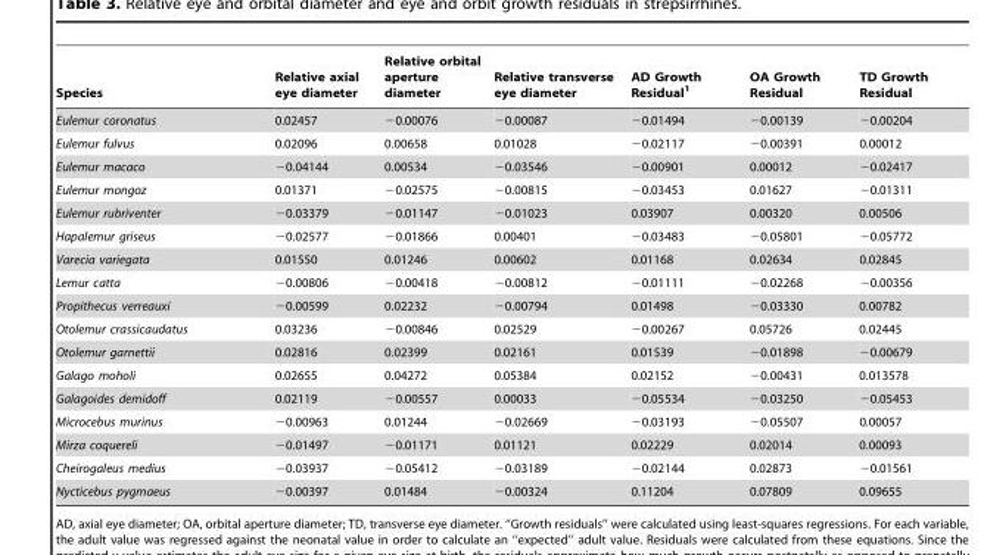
<table><thead><tr><td>Species</td><td>Relative axial eye diameter</td><td>Relative orbital aperture diameter</td><td>Relative transverse eye diameter</td><td>AD Growth Residual<sup>1</sup></td><td>OA Growth Residual</td><td>TD Growth Residual</td></tr></thead><tbody><tr><td>Eulemur coronatus</td><td>0.02457</td><td>−0.00076</td><td>−0.00087</td><td>−0.01494</td><td>−0.00139</td><td>−0.00204</td></tr><tr><td>Eulemur fulvus</td><td>0.02096</td><td>0.00658</td><td>0.01028</td><td>−0.02117</td><td>−0.00391</td><td>0.00012</td></tr><tr><td>Eulemur macaco</td><td>−0.04144</td><td>0.00534</td><td>−0.03546</td><td>−0.00901</td><td>0.00012</td><td>−0.02417</td></tr><tr><td>Eulemur mongoz</td><td>0.01371</td><td>−0.02575</td><td>−0.00815</td><td>−0.03453</td><td>0.01627</td><td>−0.01311</td></tr><tr><td>Eulemur rubriventer</td><td>−0.03379</td><td>−0.01147</td><td>−0.01023</td><td>0.03907</td><td>0.00320</td><td>0.00506</td></tr><tr><td>Hapalemur griseus</td><td>−0.02577</td><td>−0.01866</td><td>0.00401</td><td>−0.03483</td><td>−0.05801</td><td>−0.05772</td></tr><tr><td>Varecia variegata</td><td>0.01550</td><td>0.01246</td><td>0.00602</td><td>0.01168</td><td>0.02634</td><td>0.02845</td></tr><tr><td>Lemur catta</td><td>−0.00806</td><td>−0.00418</td><td>−0.00812</td><td>−0.01111</td><td>−0.02268</td><td>−0.00356</td></tr><tr><td>Propithecus verreauxi</td><td>−0.00599</td><td>0.02232</td><td>−0.00794</td><td>0.01498</td><td>−0.03330</td><td>0.00782</td></tr><tr><td>Otolemur crassicaudatus</td><td>0.03236</td><td>−0.00846</td><td>0.02529</td><td>−0.00267</td><td>0.05726</td><td>0.02445</td></tr><tr><td>Otolemur garnettii</td><td>0.02816</td><td>0.02399</td><td>0.02161</td><td>0.01539</td><td>−0.01898</td><td>−0.00679</td></tr><tr><td>Galago moholi</td><td>0.02655</td><td>0.04272</td><td>0.05384</td><td>0.02152</td><td>−0.00431</td><td>0.013578</td></tr><tr><td>Galagoides demidoff</td><td>0.02119</td><td>−0.00557</td><td>0.00033</td><td>−0.05534</td><td>−0.03250</td><td>−0.05453</td></tr><tr><td>Microcebus murinus</td><td>−0.00963</td><td>0.01244</td><td>−0.02669</td><td>−0.03193</td><td>−0.05507</td><td>0.00057</td></tr><tr><td>Mirza coquereli</td><td>−0.01497</td><td>−0.01171</td><td>0.01121</td><td>0.02229</td><td>0.02014</td><td>0.00093</td></tr><tr><td>Cheirogaleus medius</td><td>−0.03937</td><td>−0.05412</td><td>−0.03189</td><td>−0.02144</td><td>0.02873</td><td>−0.01561</td></tr><tr><td>Nycticebus pygmaeus</td><td>−0.00397</td><td>0.01484</td><td>−0.00324</td><td>0.11204</td><td>0.07809</td><td>0.09655</td></tr></tbody></table>